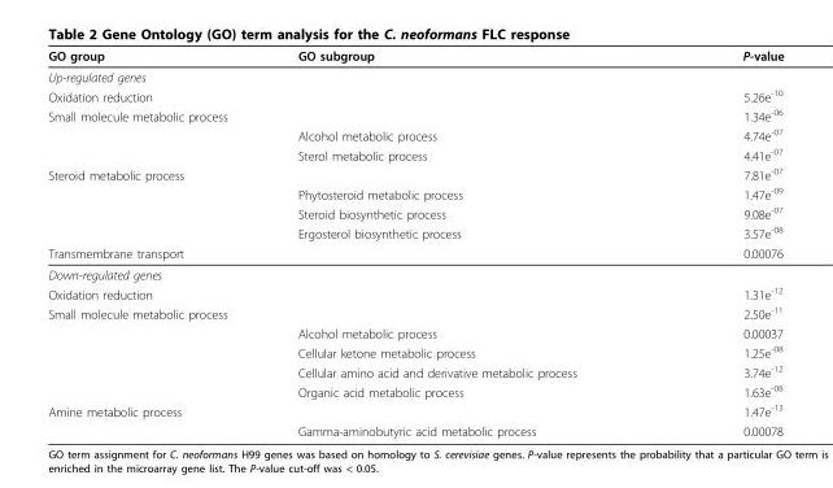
<table><thead><tr><td>GO group</td><td>GO subgroup</td><td>P-value</td></tr></thead><tbody><tr><td colspan="3">Up-regulated genes</td></tr><tr><td>Oxidation reduction</td><td></td><td>5.26e<sup>-10</sup></td></tr><tr><td colspan="2">Small molecule metabolic process</td><td>1.34e<sup>-06</sup></td></tr><tr><td></td><td>Alcohol metabolic process</td><td>4.74e<sup>-07</sup></td></tr><tr><td></td><td>Sterol metabolic process</td><td>4.41e<sup>-07</sup></td></tr><tr><td rowspan="4">Steroid metabolic process</td><td></td><td>7.81e<sup>-07</sup></td></tr><tr><td>Phytosteroid metabolic process</td><td>1.47e<sup>-09</sup></td></tr><tr><td>Steroid biosynthetic process</td><td>9.08e<sup>-07</sup></td></tr><tr><td>Ergosterol biosynthetic process</td><td>3.57e<sup>-08</sup></td></tr><tr><td>Transmembrane transport</td><td></td><td>0.00076</td></tr><tr><td colspan="3">Down-regulated genes</td></tr><tr><td>Oxidation reduction</td><td></td><td>1.31e<sup>-12</sup></td></tr><tr><td colspan="2">Small molecule metabolic process</td><td>2.50e<sup>-11</sup></td></tr><tr><td></td><td>Alcohol metabolic process</td><td>0.00037</td></tr><tr><td></td><td>Cellular ketone metabolic process</td><td>1.25e<sup>-08</sup></td></tr><tr><td></td><td>Cellular amino acid and derivative metabolic process</td><td>3.74e<sup>-12</sup></td></tr><tr><td></td><td>Organic acid metabolic process</td><td>1.63e<sup>-08</sup></td></tr><tr><td rowspan="2">Amine metabolic process</td><td></td><td>1.47e<sup>-13</sup></td></tr><tr><td>Gamma-aminobutyric acid metabolic process</td><td>0.00078</td></tr></tbody></table>